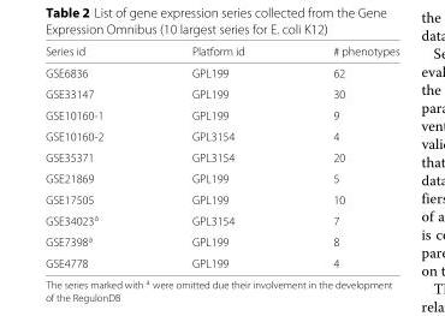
<table><thead><tr><td>Series id</td><td>Platform id</td><td># phenotypes</td></tr></thead><tbody><tr><td>GSE6836</td><td>GPL199</td><td>62</td></tr><tr><td>GSE33147</td><td>GPL199</td><td>30</td></tr><tr><td>GSE10160-1</td><td>GPL199</td><td>9</td></tr><tr><td>GSE10160-2</td><td>GPL3154</td><td>4</td></tr><tr><td>GSE35371</td><td>GPL3154</td><td>20</td></tr><tr><td>GSE21869</td><td>GPL199</td><td>5</td></tr><tr><td>GSE17505</td><td>GPL199</td><td>10</td></tr><tr><td>GSE34023<sup>a</sup></td><td>GPL3154</td><td>7</td></tr><tr><td>GSE7398<sup>a</sup></td><td>GPL199</td><td>8</td></tr><tr><td>GSE4778</td><td>GPL199</td><td>4</td></tr></tbody></table>